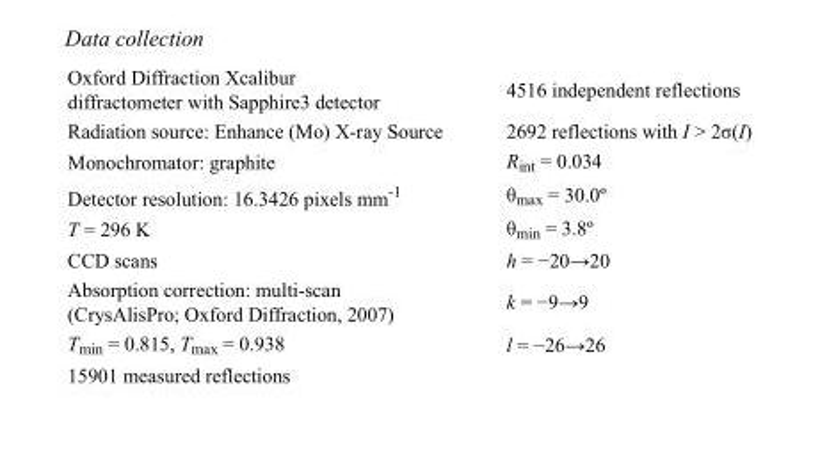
<table><tbody><tr><td>Oxford Diffraction Xcalibur diffractometer with Sapphire3 detector</td><td>4516 independent reflections</td></tr><tr><td>Radiation source: Enhance (Mo) X-ray Source</td><td>2692 reflections with I &gt; 2σ(I)</td></tr><tr><td>Monochromator: graphite</td><td>R<sub>int</sub> = 0.034</td></tr><tr><td>Detector resolution: 16.3426 pixels mm<sup>-1</sup></td><td>θ<sub>max</sub> = 30.0º</td></tr><tr><td>T = 296 K</td><td>θ<sub>min</sub> = 3.8º</td></tr><tr><td>CCD scans</td><td>h = −20→20</td></tr><tr><td>Absorption correction: multi-scan (CrysAlisPro; Oxford Diffraction, 2007)</td><td>k = −9→9</td></tr><tr><td>T<sub>min</sub> = 0.815, T<sub>max</sub> = 0.938</td><td>l = −26→26</td></tr><tr><td>15901 measured reflections</td><td></td></tr></tbody></table>